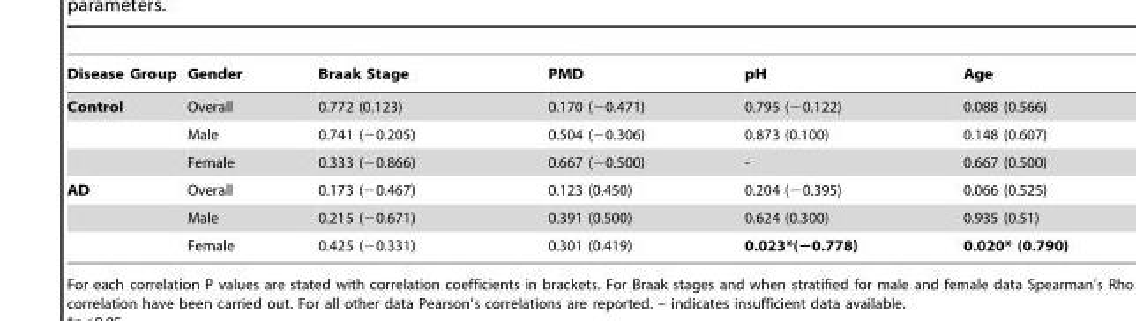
<table><thead><tr><td>Disease Group</td><td>Gender</td><td>Braak Stage</td><td>PMD</td><td>pH</td><td>Age</td></tr></thead><tbody><tr><td rowspan="3">Control</td><td>Overall</td><td>0.772 (0.123)</td><td>0.170 (−0.471)</td><td>0.795 (−0.122)</td><td>0.088 (0.566)</td></tr><tr><td>Male</td><td>0.741 (−0.205)</td><td>0.504 (−0.306)</td><td>0.873 (0.100)</td><td>0.148 (0.607)</td></tr><tr><td>Female</td><td>0.333 (−0.866)</td><td>0.667 (−0.500)</td><td>-</td><td>0.667 (0.500)</td></tr><tr><td rowspan="3">AD</td><td>Overall</td><td>0.173 (−0.467)</td><td>0.123 (0.450)</td><td>0.204 (−0.395)</td><td>0.066 (0.525)</td></tr><tr><td>Male</td><td>0.215 (−0.671)</td><td>0.391 (0.500)</td><td>0.624 (0.300)</td><td>0.935 (0.51)</td></tr><tr><td>Female</td><td>0.425 (−0.331)</td><td>0.301 (0.419)</td><td>0.023*(−0.778)</td><td>0.020* (0.790)</td></tr></tbody></table>